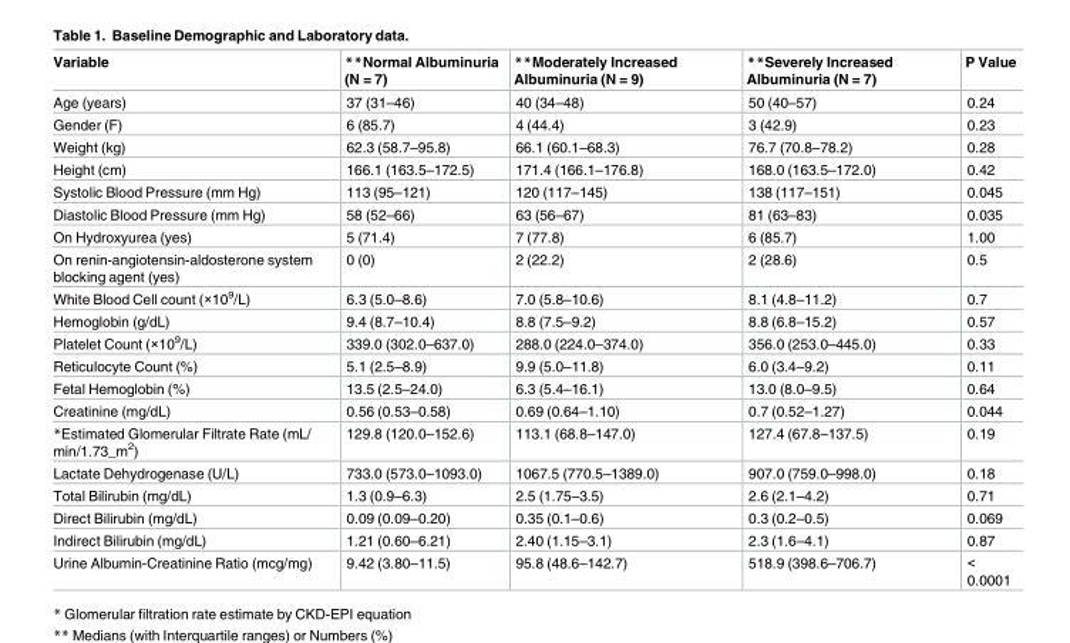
<table><thead><tr><td>Variable</td><td>**Normal Albuminuria (N = 7)</td><td>**Moderately Increased Albuminuria (N = 9)</td><td>**Severely Increased Albuminuria (N = 7)</td><td>P Value</td></tr></thead><tbody><tr><td>Age (years)</td><td>37 (31–46)</td><td>40 (34–48)</td><td>50 (40–57)</td><td>0.24</td></tr><tr><td>Gender (F)</td><td>6 (85.7)</td><td>4 (44.4)</td><td>3 (42.9)</td><td>0.23</td></tr><tr><td>Weight (kg)</td><td>62.3 (58.7–95.8)</td><td>66.1 (60.1–68.3)</td><td>76.7 (70.8–78.2)</td><td>0.28</td></tr><tr><td>Height (cm)</td><td>166.1 (163.5–172.5)</td><td>171.4 (166.1–176.8)</td><td>168.0 (163.5–172.0)</td><td>0.42</td></tr><tr><td>Systolic Blood Pressure (mm Hg)</td><td>113 (95–121)</td><td>120 (117–145)</td><td>138 (117–151)</td><td>0.045</td></tr><tr><td>Diastolic Blood Pressure (mm Hg)</td><td>58 (52–66)</td><td>63 (56–67)</td><td>81 (63–83)</td><td>0.035</td></tr><tr><td>On Hydroxyurea (yes)</td><td>5 (71.4)</td><td>7 (77.8)</td><td>6 (85.7)</td><td>1.00</td></tr><tr><td>On renin-angiotensin-aldosterone system blocking agent (yes)</td><td>0 (0)</td><td>2 (22.2)</td><td>2 (28.6)</td><td>0.5</td></tr><tr><td>White Blood Cell count (×10<sup>9</sup>/L)</td><td>6.3 (5.0–8.6)</td><td>7.0 (5.8–10.6)</td><td>8.1 (4.8–11.2)</td><td>0.7</td></tr><tr><td>Hemoglobin (g/dL)</td><td>9.4 (8.7–10.4)</td><td>8.8 (7.5–9.2)</td><td>8.8 (6.8–15.2)</td><td>0.57</td></tr><tr><td>Platelet Count (×10<sup>9</sup>/L)</td><td>339.0 (302.0–637.0)</td><td>288.0 (224.0–374.0)</td><td>356.0 (253.0–445.0)</td><td>0.33</td></tr><tr><td>Reticulocyte Count (%)</td><td>5.1 (2.5–8.9)</td><td>9.9 (5.0–11.8)</td><td>6.0 (3.4–9.2)</td><td>0.11</td></tr><tr><td>Fetal Hemoglobin (%)</td><td>13.5 (2.5–24.0)</td><td>6.3 (5.4–16.1)</td><td>13.0 (8.0–9.5)</td><td>0.64</td></tr><tr><td>Creatinine (mg/dL)</td><td>0.56 (0.53–0.58)</td><td>0.69 (0.64–1.10)</td><td>0.7 (0.52–1.27)</td><td>0.044</td></tr><tr><td>*Estimated Glomerular Filtrate Rate (mL/ min/1.73_m<sup>2</sup>)</td><td>129.8 (120.0–152.6)</td><td>113.1 (68.8–147.0)</td><td>127.4 (67.8–137.5)</td><td>0.19</td></tr><tr><td>Lactate Dehydrogenase (U/L)</td><td>733.0 (573.0–1093.0)</td><td>1067.5 (770.5–1389.0)</td><td>907.0 (759.0–998.0)</td><td>0.18</td></tr><tr><td>Total Bilirubin (mg/dL)</td><td>1.3 (0.9–6.3)</td><td>2.5 (1.75–3.5)</td><td>2.6 (2.1–4.2)</td><td>0.71</td></tr><tr><td>Direct Bilirubin (mg/dL)</td><td>0.09 (0.09–0.20)</td><td>0.35 (0.1–0.6)</td><td>0.3 (0.2–0.5)</td><td>0.069</td></tr><tr><td>Indirect Bilirubin (mg/dL)</td><td>1.21 (0.60–6.21)</td><td>2.40 (1.15–3.1)</td><td>2.3 (1.6–4.1)</td><td>0.87</td></tr><tr><td>Urine Albumin-Creatinine Ratio (mcg/mg)</td><td>9.42 (3.80–11.5)</td><td>95.8 (48.6–142.7)</td><td>518.9 (398.6–706.7)</td><td>&lt; 0.0001</td></tr></tbody></table>